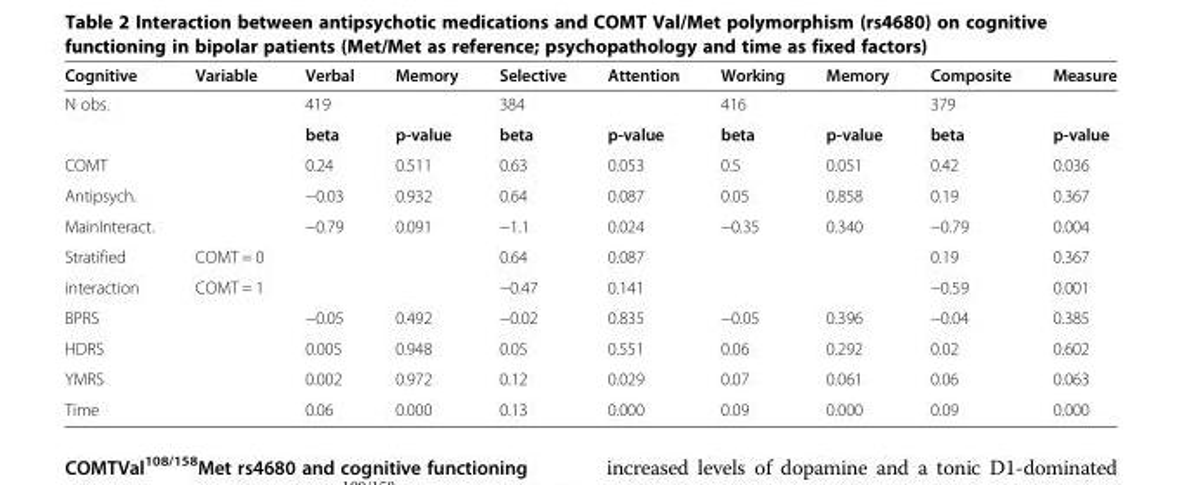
<table><thead><tr><td>Cognitive</td><td>Variable</td><td>Verbal</td><td>Memory</td><td>Selective</td><td>Attention</td><td>Working</td><td>Memory</td><td>Composite</td><td>Measure</td></tr></thead><tbody><tr><td rowspan="2">N obs.</td><td></td><td>419</td><td></td><td>384</td><td></td><td>416</td><td></td><td>379</td><td></td></tr><tr><td></td><td>beta</td><td>p-value</td><td>beta</td><td>p-value</td><td>beta</td><td>p-value</td><td>beta</td><td>p-value</td></tr><tr><td>COMT</td><td></td><td>0.24</td><td>0.511</td><td>0.63</td><td>0.053</td><td>0.5</td><td>0.051</td><td>0.42</td><td>0.036</td></tr><tr><td>Antipsych.</td><td></td><td>−0.03</td><td>0.932</td><td>0.64</td><td>0.087</td><td>0.05</td><td>0.858</td><td>0.19</td><td>0.367</td></tr><tr><td>MainInteract.</td><td></td><td>−0.79</td><td>0.091</td><td>−1.1</td><td>0.024</td><td>−0.35</td><td>0.340</td><td>−0.79</td><td>0.004</td></tr><tr><td>Stratified</td><td>COMT = 0</td><td></td><td></td><td>0.64</td><td>0.087</td><td></td><td></td><td>0.19</td><td>0.367</td></tr><tr><td>interaction</td><td>COMT = 1</td><td></td><td></td><td>−0.47</td><td>0.141</td><td></td><td></td><td>−0.59</td><td>0.001</td></tr><tr><td>BPRS</td><td></td><td>−0.05</td><td>0.492</td><td>−0.02</td><td>0.835</td><td>−0.05</td><td>0.396</td><td>−0.04</td><td>0.385</td></tr><tr><td>HDRS</td><td></td><td>0.005</td><td>0.948</td><td>0.05</td><td>0.551</td><td>0.06</td><td>0.292</td><td>0.02</td><td>0.602</td></tr><tr><td>YMRS</td><td></td><td>0.002</td><td>0.972</td><td>0.12</td><td>0.029</td><td>0.07</td><td>0.061</td><td>0.06</td><td>0.063</td></tr><tr><td>Time</td><td></td><td>0.06</td><td>0.000</td><td>0.13</td><td>0.000</td><td>0.09</td><td>0.000</td><td>0.09</td><td>0.000</td></tr></tbody></table>